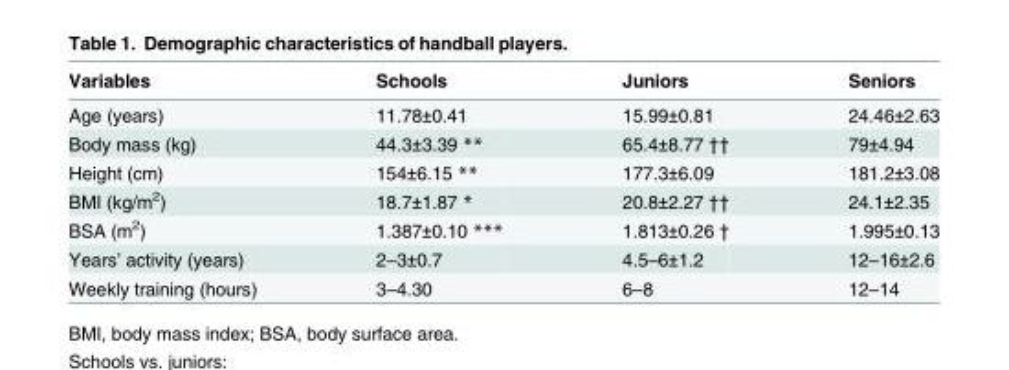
<table><thead><tr><td>Variables</td><td>Schools</td><td>Juniors</td><td>Seniors</td></tr></thead><tbody><tr><td>Age (years)</td><td>11.78±0.41</td><td>15.99±0.81</td><td>24.46±2.63</td></tr><tr><td>Body mass (kg)</td><td>44.3±3.39 **</td><td>65.4±8.77 ††</td><td>79±4.94</td></tr><tr><td>Height (cm)</td><td>154±6.15 **</td><td>177.3±6.09</td><td>181.2±3.08</td></tr><tr><td>BMI (kg/m<sup>2</sup>)</td><td>18.7±1.87 *</td><td>20.8±2.27 ††</td><td>24.1±2.35</td></tr><tr><td>BSA (m<sup>2</sup>)</td><td>1.387±0.10 ***</td><td>1.813±0.26 †</td><td>1.995±0.13</td></tr><tr><td>Years’ activity (years)</td><td>2–3±0.7</td><td>4.5–6±1.2</td><td>12–16±2.6</td></tr><tr><td>Weekly training (hours)</td><td>3–4.30</td><td>6–8</td><td>12–14</td></tr></tbody></table>